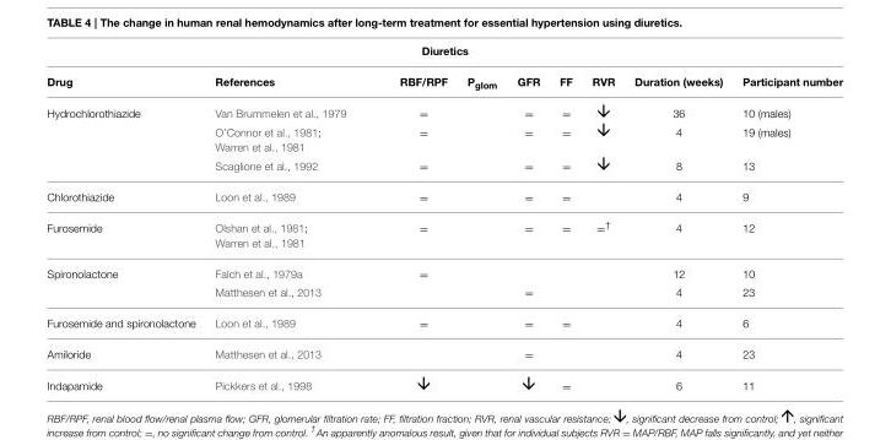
<table><thead><tr><td colspan="9">Diuretics</td></tr><tr><td>Drug</td><td>References</td><td>RBF/RPF</td><td>P<sub>glom</sub></td><td>GFR</td><td>FF</td><td>RVR</td><td>Duration (weeks)</td><td>Participant number</td></tr></thead><tbody><tr><td rowspan="3">Hydrochlorothiazide</td><td>Van Brummelen et al., 1979</td><td>=</td><td></td><td>=</td><td>=</td><td></td><td>36</td><td>10 (males)</td></tr><tr><td>O’Connor et al., 1981; Warren et al., 1981</td><td>=</td><td></td><td>=</td><td>=</td><td></td><td>4</td><td>19 (males)</td></tr><tr><td>Scaglione et al., 1992</td><td>=</td><td></td><td>=</td><td>=</td><td></td><td>8</td><td>13</td></tr><tr><td>Chlorothiazide</td><td>Loon et al., 1989</td><td>=</td><td></td><td>=</td><td>=</td><td></td><td>4</td><td>9</td></tr><tr><td>Furosemide</td><td>Olshan et al., 1981; Warren et al., 1981</td><td>=</td><td></td><td>=</td><td>=</td><td>=<sup>†</sup></td><td>4</td><td>12</td></tr><tr><td rowspan="2">Spironolactone</td><td>Falch et al., 1979a</td><td>=</td><td></td><td></td><td></td><td></td><td>12</td><td>10</td></tr><tr><td>Matthesen et al., 2013</td><td></td><td></td><td>=</td><td></td><td></td><td>4</td><td>23</td></tr><tr><td>Furosemide and spironolactone</td><td>Loon et al., 1989</td><td>=</td><td></td><td>=</td><td>=</td><td></td><td>4</td><td>6</td></tr><tr><td>Amiloride</td><td>Matthesen et al., 2013</td><td></td><td></td><td>=</td><td></td><td></td><td>4</td><td>23</td></tr><tr><td>Indapamide</td><td>Pickkers et al., 1998</td><td></td><td></td><td></td><td>=</td><td></td><td>6</td><td>11</td></tr></tbody></table>